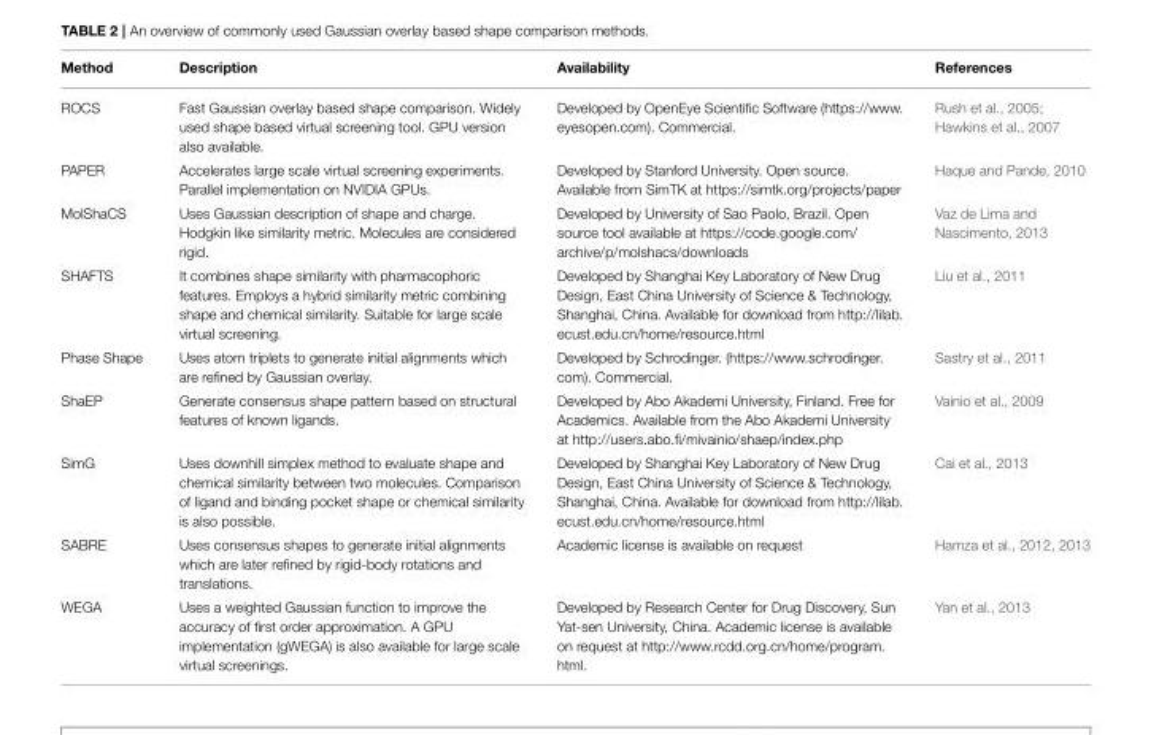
<table><thead><tr><td>Method</td><td>Description</td><td>Availability</td><td>References</td></tr></thead><tbody><tr><td>ROCS</td><td>Fast Gaussian overlay based shape comparison. Widely used shape based virtual screening tool. GPU version also available.</td><td>Developed by OpenEye Scientific Software (https://www. eyesopen.com). Commercial.</td><td>Rush et al., 2005; Hawkins et al., 2007</td></tr><tr><td>PAPER</td><td>Accelerates large scale virtual screening experiments. Parallel implementation on NVIDIA GPUs.</td><td>Developed by Stanford University. Open source. Available from SimTK at https://simtk.org/projects/paper</td><td>Haque and Pande, 2010</td></tr><tr><td>MolShaCS</td><td>Uses Gaussian description of shape and charge. Hodgkin like similarity metric. Molecules are considered rigid.</td><td>Developed by University of Sao Paolo, Brazil. Open source tool available at https://code.google.com/ archive/p/molshacs/downloads</td><td>Vaz de Lima and Nascimento, 2013</td></tr><tr><td>SHAFTS</td><td>It combines shape similarity with pharmacophoric features. Employs a hybrid similarity metric combining shape and chemical similarity. Suitable for large scale virtual screening.</td><td>Developed by Shanghai Key Laboratory of New Drug Design, East China University of Science &amp; Technology, Shanghai, China. Available for download from http://lilab. ecust.edu.cn/home/resource.html</td><td>Liu et al., 2011</td></tr><tr><td>Phase Shape</td><td>Uses atom triplets to generate initial alignments which are refined by Gaussian overlay.</td><td>Developed by Schrodinger. (https://www.schrodinger. com). Commercial.</td><td>Sastry et al., 2011</td></tr><tr><td>ShaEP</td><td>Generate consensus shape pattern based on structural features of known ligands.</td><td>Developed by Abo Akademi University, Finland. Free for Academics. Available from the Abo Akademi University at http://users.abo.fi/mivainio/shaep/index.php</td><td>Vainio et al., 2009</td></tr><tr><td>SimG</td><td>Uses downhill simplex method to evaluate shape and chemical similarity between two molecules. Comparison of ligand and binding pocket shape or chemical similarity is also possible.</td><td>Developed by Shanghai Key Laboratory of New Drug Design, East China University of Science &amp; Technology, Shanghai, China. Available for download from http://lilab. ecust.edu.cn/home/resource.html</td><td>Cai et al., 2013</td></tr><tr><td>SABRE</td><td>Uses consensus shapes to generate initial alignments which are later refined by rigid-body rotations and translations.</td><td>Academic license is available on request</td><td>Hamza et al., 2012, 2013</td></tr><tr><td>WEGA</td><td>Uses a weighted Gaussian function to improve the accuracy of first order approximation. A GPU implementation (gWEGA) is also available for large scale virtual screenings.</td><td>Developed by Research Center for Drug Discovery, Sun Yat-sen University, China. Academic license is available on request at http://www.rcdd.org.cn/home/program. html.</td><td>Yan et al., 2013</td></tr></tbody></table>